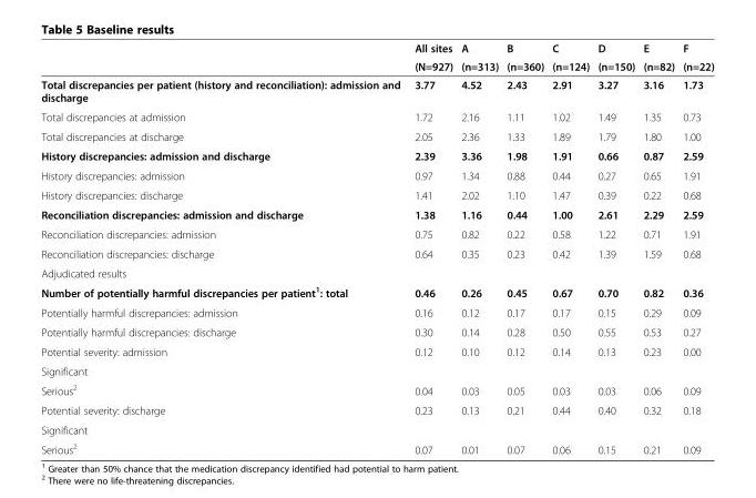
<table><thead><tr><td rowspan="2"></td><td rowspan="2">All sites (N=927)</td><td rowspan="2">A (n=313)</td><td rowspan="2">B (n=360)</td><td rowspan="2">C (n=124)</td><td rowspan="2">D (n=150)</td><td rowspan="2">E (n=82)</td><td rowspan="2">F (n=22)</td></tr><tr></tr></thead><tbody><tr><td>Total discrepancies per patient (history and reconciliation): admission and discharge</td><td>3.77</td><td>4.52</td><td>2.43</td><td>2.91</td><td>3.27</td><td>3.16</td><td>1.73</td></tr><tr><td>Total discrepancies at admission</td><td>1.72</td><td>2.16</td><td>1.11</td><td>1.02</td><td>1.49</td><td>1.35</td><td>0.73</td></tr><tr><td>Total discrepancies at discharge</td><td>2.05</td><td>2.36</td><td>1.33</td><td>1.89</td><td>1.79</td><td>1.80</td><td>1.00</td></tr><tr><td>History discrepancies: admission and discharge</td><td>2.39</td><td>3.36</td><td>1.98</td><td>1.91</td><td>0.66</td><td>0.87</td><td>2.59</td></tr><tr><td>History discrepancies: admission</td><td>0.97</td><td>1.34</td><td>0.88</td><td>0.44</td><td>0.27</td><td>0.65</td><td>1.91</td></tr><tr><td>History discrepancies: discharge</td><td>1.41</td><td>2.02</td><td>1.10</td><td>1.47</td><td>0.39</td><td>0.22</td><td>0.68</td></tr><tr><td>Reconciliation discrepancies: admission and discharge</td><td>1.38</td><td>1.16</td><td>0.44</td><td>1.00</td><td>2.61</td><td>2.29</td><td>2.59</td></tr><tr><td>Reconciliation discrepancies: admission</td><td>0.75</td><td>0.82</td><td>0.22</td><td>0.58</td><td>1.22</td><td>0.71</td><td>1.91</td></tr><tr><td>Reconciliation discrepancies: discharge</td><td>0.64</td><td>0.35</td><td>0.23</td><td>0.42</td><td>1.39</td><td>1.59</td><td>0.68</td></tr><tr><td colspan="8">Adjudicated results</td></tr><tr><td>Number of potentially harmful discrepancies per patient<sup>1</sup>: total</td><td>0.46</td><td>0.26</td><td>0.45</td><td>0.67</td><td>0.70</td><td>0.82</td><td>0.36</td></tr><tr><td>Potentially harmful discrepancies: admission</td><td>0.16</td><td>0.12</td><td>0.17</td><td>0.17</td><td>0.15</td><td>0.29</td><td>0.09</td></tr><tr><td>Potentially harmful discrepancies: discharge</td><td>0.30</td><td>0.14</td><td>0.28</td><td>0.50</td><td>0.55</td><td>0.53</td><td>0.27</td></tr><tr><td>Potential severity: admission</td><td rowspan="2">0.12</td><td rowspan="2">0.10</td><td rowspan="2">0.12</td><td rowspan="2">0.14</td><td rowspan="2">0.13</td><td rowspan="2">0.23</td><td rowspan="2">0.00</td></tr><tr><td>Significant</td></tr><tr><td>Serious<sup>2</sup></td><td>0.04</td><td>0.03</td><td>0.05</td><td>0.03</td><td>0.03</td><td>0.06</td><td>0.09</td></tr><tr><td>Potential severity: discharge</td><td rowspan="2">0.23</td><td rowspan="2">0.13</td><td rowspan="2">0.21</td><td rowspan="2">0.44</td><td rowspan="2">0.40</td><td rowspan="2">0.32</td><td rowspan="2">0.18</td></tr><tr><td>Significant</td></tr><tr><td>Serious<sup>2</sup></td><td>0.07</td><td>0.01</td><td>0.07</td><td>0.06</td><td>0.15</td><td>0.21</td><td>0.09</td></tr></tbody></table>